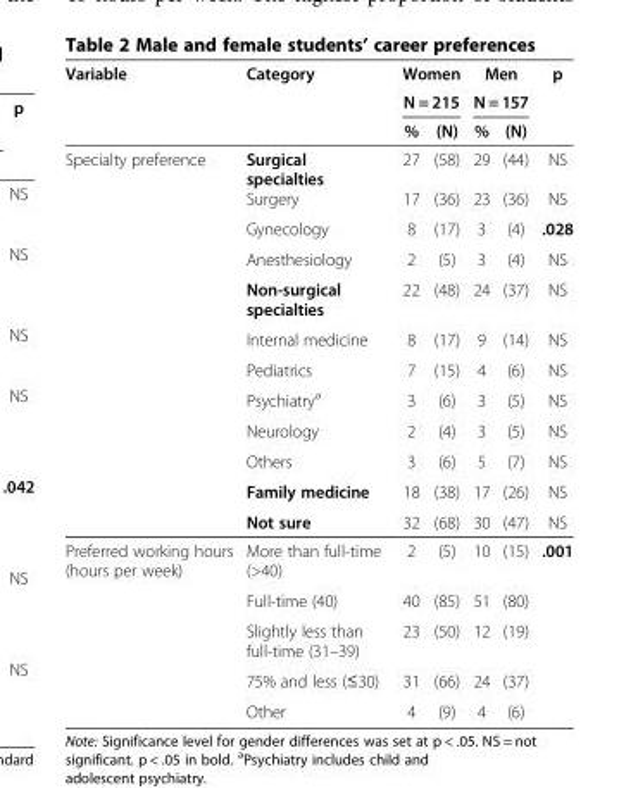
<table><thead><tr><td rowspan="3">Variable</td><td rowspan="3">Category</td><td rowspan="2" colspan="2">Women N = 215</td><td rowspan="2" colspan="2">Men N = 157</td><td rowspan="3">p</td></tr><tr></tr><tr><td>%</td><td>(N)</td><td>%</td><td>(N)</td></tr></thead><tbody><tr><td rowspan="12">Specialty preference</td><td>Surgical specialties</td><td>27</td><td>(58)</td><td>29</td><td>(44)</td><td>NS</td></tr><tr><td>Surgery</td><td>17</td><td>(36)</td><td>23</td><td>(36)</td><td>NS</td></tr><tr><td>Gynecology</td><td>8</td><td>(17)</td><td>3</td><td>(4)</td><td>.028</td></tr><tr><td>Anesthesiology</td><td>2</td><td>(5)</td><td>3</td><td>(4)</td><td>NS</td></tr><tr><td>Non-surgical specialties</td><td>22</td><td>(48)</td><td>24</td><td>(37)</td><td>NS</td></tr><tr><td>Internal medicine</td><td>8</td><td>(17)</td><td>9</td><td>(14)</td><td>NS</td></tr><tr><td>Pediatrics</td><td>7</td><td>(15)</td><td>4</td><td>(6)</td><td>NS</td></tr><tr><td>Psychiatry<sup>a</sup></td><td>3</td><td>(6)</td><td>3</td><td>(5)</td><td>NS</td></tr><tr><td>Neurology</td><td>2</td><td>(4)</td><td>3</td><td>(5)</td><td>NS</td></tr><tr><td>Others</td><td>3</td><td>(6)</td><td>5</td><td>(7)</td><td>NS</td></tr><tr><td>Family medicine</td><td>18</td><td>(38)</td><td>17</td><td>(26)</td><td>NS</td></tr><tr><td>Not sure</td><td>32</td><td>(68)</td><td>30</td><td>(47)</td><td>NS</td></tr><tr><td rowspan="5">Preferred working hours (hours per week)</td><td>More than full-time (&gt;40)</td><td>2</td><td>(5)</td><td>10</td><td>(15)</td><td>.001</td></tr><tr><td>Full-time (40)</td><td>40</td><td>(85)</td><td>51</td><td>(80)</td><td></td></tr><tr><td>Slightly less than full-time (31–39)</td><td>23</td><td>(50)</td><td>12</td><td>(19)</td><td></td></tr><tr><td>75% and less (≤30)</td><td>31</td><td>(66)</td><td>24</td><td>(37)</td><td></td></tr><tr><td>Other</td><td>4</td><td>(9)</td><td>4</td><td>(6)</td><td></td></tr></tbody></table>